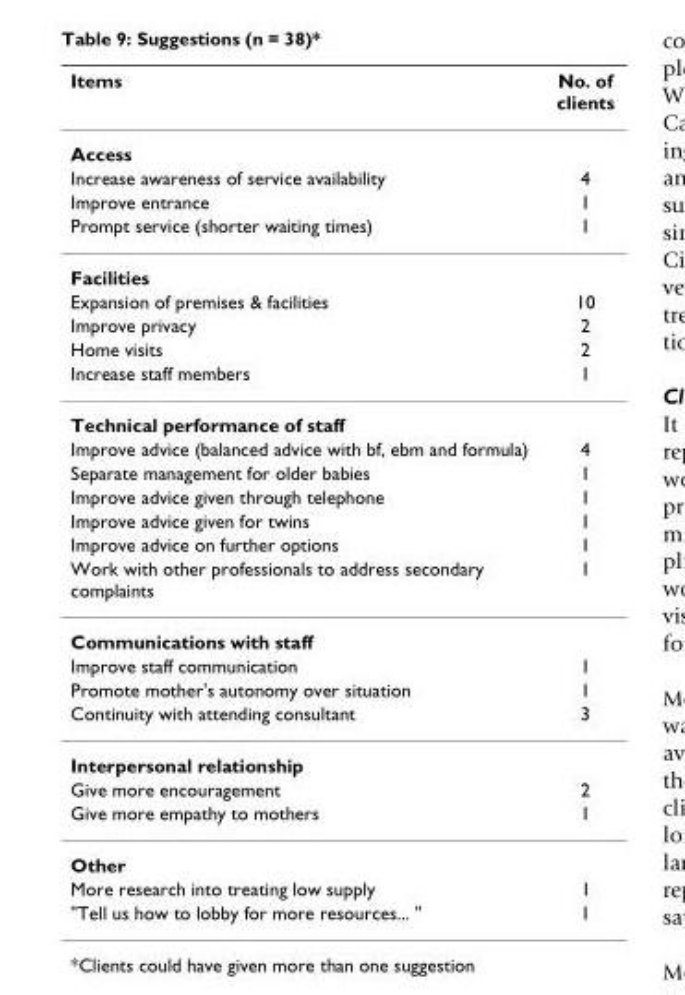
<table><thead><tr><td>Items</td><td>No. of clients</td></tr></thead><tbody><tr><td colspan="2">Access</td></tr><tr><td>Increase awareness of service availability</td><td>4</td></tr><tr><td>Improve entrance</td><td>1</td></tr><tr><td>Prompt service (shorter waiting times)</td><td>1</td></tr><tr><td colspan="2">Facilities</td></tr><tr><td>Expansion of premises &amp; facilities</td><td>10</td></tr><tr><td>Improve privacy</td><td>2</td></tr><tr><td>Home visits</td><td>2</td></tr><tr><td>Increase staff members</td><td>1</td></tr><tr><td colspan="2">Technical performance of staff</td></tr><tr><td>Improve advice (balanced advice with bf, ebm and formula)</td><td>4</td></tr><tr><td>Separate management for older babies</td><td>1</td></tr><tr><td>Improve advice given through telephone</td><td>1</td></tr><tr><td>Improve advice given for twins</td><td>1</td></tr><tr><td>Improve advice on further options</td><td>1</td></tr><tr><td>Work with other professionals to address secondary complaints</td><td>1</td></tr><tr><td colspan="2">Communications with staff</td></tr><tr><td>Improve staff communication</td><td>1</td></tr><tr><td>Promote mother&#x27;s autonomy over situation</td><td>1</td></tr><tr><td>Continuity with attending consultant</td><td>3</td></tr><tr><td colspan="2">Interpersonal relationship</td></tr><tr><td>Give more encouragement</td><td>2</td></tr><tr><td>Give more empathy to mothers</td><td>1</td></tr><tr><td colspan="2">Other</td></tr><tr><td>More research into treating low supply</td><td>1</td></tr><tr><td>&quot;Tell us how to lobby for more resources... &quot;</td><td>1</td></tr></tbody></table>